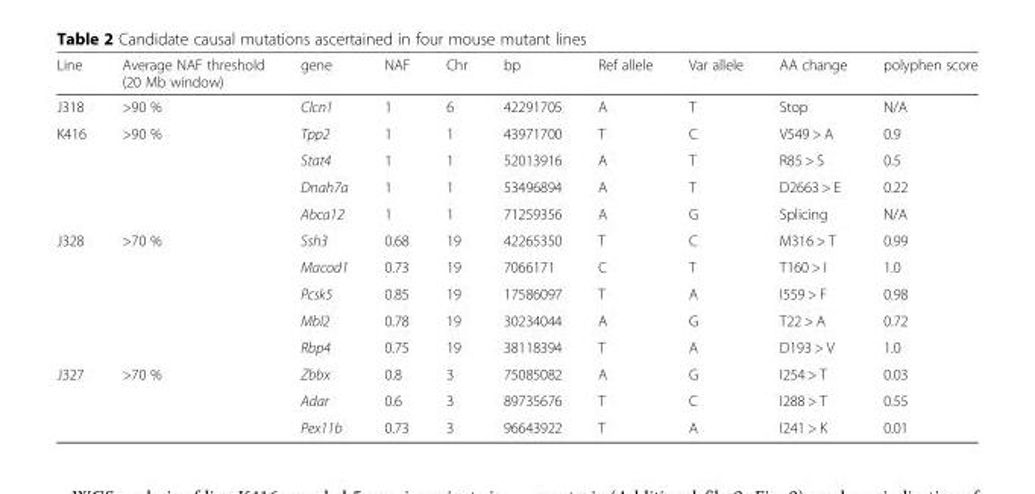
<table><thead><tr><td>Line</td><td>Average NAF threshold (20 Mb window)</td><td>gene</td><td>NAF</td><td>Chr</td><td>bp</td><td>Ref allele</td><td>Var allele</td><td>AA change</td><td>polyphen score</td></tr></thead><tbody><tr><td>J318</td><td>&gt;90 %</td><td>Clcn1</td><td>1</td><td>6</td><td>42291705</td><td>A</td><td>T</td><td>Stop</td><td>N/A</td></tr><tr><td rowspan="4">K416</td><td rowspan="4">&gt;90 %</td><td>Tpp2</td><td>1</td><td>1</td><td>43971700</td><td>T</td><td>C</td><td>V549 &gt; A</td><td>0.9</td></tr><tr><td>Stat4</td><td>1</td><td>1</td><td>52013916</td><td>A</td><td>T</td><td>R85 &gt; S</td><td>0.5</td></tr><tr><td>Dnah7a</td><td>1</td><td>1</td><td>53496894</td><td>A</td><td>T</td><td>D2663 &gt; E</td><td>0.22</td></tr><tr><td>Abca12</td><td>1</td><td>1</td><td>71259356</td><td>A</td><td>G</td><td>Splicing</td><td>N/A</td></tr><tr><td rowspan="5">J328</td><td rowspan="5">&gt;70 %</td><td>Ssh3</td><td>0.68</td><td>19</td><td>42265350</td><td>T</td><td>C</td><td>M316 &gt; T</td><td>0.99</td></tr><tr><td>Macod1</td><td>0.73</td><td>19</td><td>7066171</td><td>C</td><td>T</td><td>T160 &gt; I</td><td>1.0</td></tr><tr><td>Pcsk5</td><td>0.85</td><td>19</td><td>17586097</td><td>T</td><td>A</td><td>I559 &gt; F</td><td>0.98</td></tr><tr><td>Mbl2</td><td>0.78</td><td>19</td><td>30234044</td><td>A</td><td>G</td><td>T22 &gt; A</td><td>0.72</td></tr><tr><td>Rbp4</td><td>0.75</td><td>19</td><td>38118394</td><td>T</td><td>A</td><td>D193 &gt; V</td><td>1.0</td></tr><tr><td rowspan="3">J327</td><td rowspan="3">&gt;70 %</td><td>Zbbx</td><td>0.8</td><td>3</td><td>75085082</td><td>A</td><td>G</td><td>I254 &gt; T</td><td>0.03</td></tr><tr><td>Adar</td><td>0.6</td><td>3</td><td>89735676</td><td>T</td><td>C</td><td>I288 &gt; T</td><td>0.55</td></tr><tr><td>Pex11b</td><td>0.73</td><td>3</td><td>96643922</td><td>T</td><td>A</td><td>I241 &gt; K</td><td>0.01</td></tr></tbody></table>